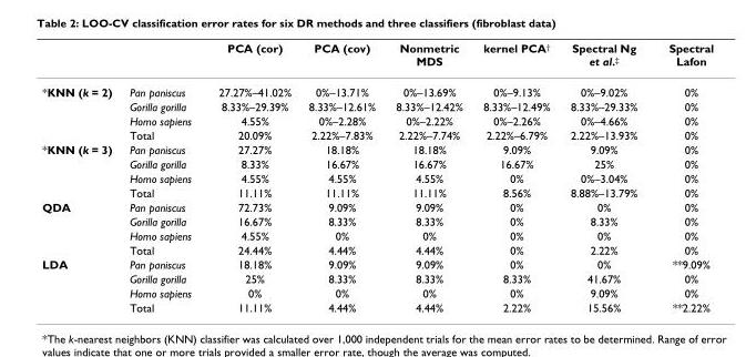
<table><thead><tr><td></td><td></td><td>PCA (cor)</td><td>PCA (cov)</td><td>Nonmetric MDS</td><td>kernel PCA<sup>†</sup></td><td>Spectral Ng et al.<sup>‡</sup></td><td>Spectral Lafon</td></tr></thead><tbody><tr><td rowspan="4">*KNN (k = 2)</td><td>Pan paniscus</td><td>27.27%–41.02%</td><td>0%–13.71%</td><td>0%–13.69%</td><td>0%–9.13%</td><td>0%–9.02%</td><td>0%</td></tr><tr><td>Gorilla gorilla</td><td>8.33%–29.39%</td><td>8.33%–12.61%</td><td>8.33%–12.42%</td><td>8.33%–12.49%</td><td>8.33%–29.33%</td><td>0%</td></tr><tr><td>Homo sapiens</td><td>4.55%</td><td>0%–2.28%</td><td>0%–2.22%</td><td>0%–2.26%</td><td>0%–4.66%</td><td>0%</td></tr><tr><td>Total</td><td>20.09%</td><td>2.22%–7.83%</td><td>2.22%–7.74%</td><td>2.22%–6.79%</td><td>2.22%–13.93%</td><td>0%</td></tr><tr><td rowspan="4">*KNN (k = 3)</td><td>Pan paniscus</td><td>27.27%</td><td>18.18%</td><td>18.18%</td><td>9.09%</td><td>9.09%</td><td>0%</td></tr><tr><td>Gorilla gorilla</td><td>8.33%</td><td>16.67%</td><td>16.67%</td><td>16.67%</td><td>25%</td><td>0%</td></tr><tr><td>Homo sapiens</td><td>4.55%</td><td>4.55%</td><td>4.55%</td><td>0%</td><td>0%–3.04%</td><td>0%</td></tr><tr><td>Total</td><td>11.11%</td><td>11.11%</td><td>11.11%</td><td>8.56%</td><td>8.88%–13.79%</td><td>0%</td></tr><tr><td rowspan="4">QDA</td><td>Pan paniscus</td><td>72.73%</td><td>9.09%</td><td>9.09%</td><td>0%</td><td>0%</td><td>0%</td></tr><tr><td>Gorilla gorilla</td><td>16.67%</td><td>8.33%</td><td>8.33%</td><td>0%</td><td>8.33%</td><td>0%</td></tr><tr><td>Homo sapiens</td><td>4.55%</td><td>0%</td><td>0%</td><td>0%</td><td>0%</td><td>0%</td></tr><tr><td>Total</td><td>24.44%</td><td>4.44%</td><td>4.44%</td><td>0%</td><td>2.22%</td><td>0%</td></tr><tr><td rowspan="4">LDA</td><td>Pan paniscus</td><td>18.18%</td><td>9.09%</td><td>9.09%</td><td>0%</td><td>0%</td><td>**9.09%</td></tr><tr><td>Gorilla gorilla</td><td>25%</td><td>8.33%</td><td>8.33%</td><td>8.33%</td><td>41.67%</td><td>0%</td></tr><tr><td>Homo sapiens</td><td>0%</td><td>0%</td><td>0%</td><td>0%</td><td>9.09%</td><td>0%</td></tr><tr><td>Total</td><td>11.11%</td><td>4.44%</td><td>4.44%</td><td>2.22%</td><td>15.56%</td><td>**2.22%</td></tr></tbody></table>